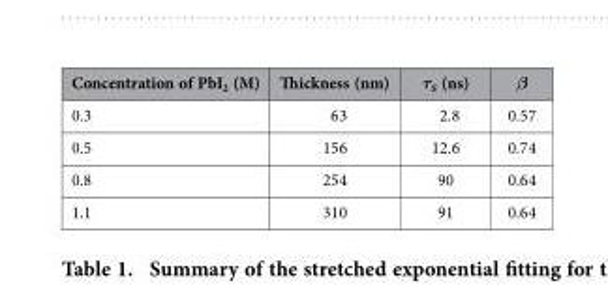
<table><thead><tr><td>Concentration of PbI<sub>2</sub> (M)</td><td>Thickness (nm)</td><td>τ<sub>S</sub> (ns)</td><td>β</td></tr></thead><tbody><tr><td>0.3</td><td>63</td><td>2.8</td><td>0.57</td></tr><tr><td>0.5</td><td>156</td><td>12.6</td><td>0.74</td></tr><tr><td>0.8</td><td>254</td><td>90</td><td>0.64</td></tr><tr><td>1.1</td><td>310</td><td>91</td><td>0.64</td></tr></tbody></table>